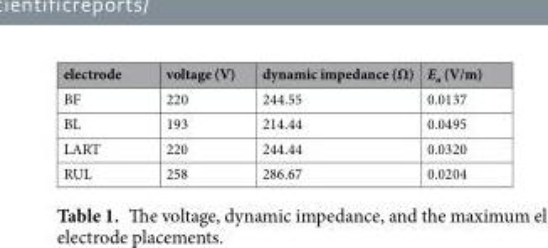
<table><thead><tr><td>electrode</td><td>voltage (V)</td><td>dynamic impedance (Ω)</td><td>E<sub>a</sub> (V/m)</td></tr></thead><tbody><tr><td>BF</td><td>220</td><td>244.55</td><td>0.0137</td></tr><tr><td>BL</td><td>193</td><td>214.44</td><td>0.0495</td></tr><tr><td>LART</td><td>220</td><td>244.44</td><td>0.0320</td></tr><tr><td>RUL</td><td>258</td><td>286.67</td><td>0.0204</td></tr></tbody></table>